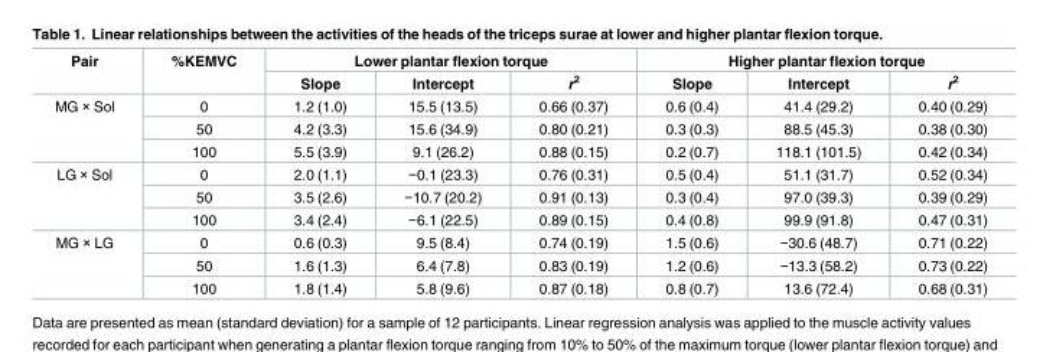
<table><thead><tr><td rowspan="2">Pair</td><td rowspan="2">%KEMVC</td><td colspan="3">Lower plantar flexion torque</td><td colspan="3">Higher plantar flexion torque</td></tr><tr><td>Slope</td><td>Intercept</td><td>r<sup>2</sup></td><td>Slope</td><td>Intercept</td><td>r<sup>2</sup></td></tr></thead><tbody><tr><td rowspan="3">MG × Sol</td><td>0</td><td>1.2 (1.0)</td><td>15.5 (13.5)</td><td>0.66 (0.37)</td><td>0.6 (0.4)</td><td>41.4 (29.2)</td><td>0.40 (0.29)</td></tr><tr><td>50</td><td>4.2 (3.3)</td><td>15.6 (34.9)</td><td>0.80 (0.21)</td><td>0.3 (0.3)</td><td>88.5 (45.3)</td><td>0.38 (0.30)</td></tr><tr><td>100</td><td>5.5 (3.9)</td><td>9.1 (26.2)</td><td>0.88 (0.15)</td><td>0.2 (0.7)</td><td>118.1 (101.5)</td><td>0.42 (0.34)</td></tr><tr><td rowspan="3">LG × Sol</td><td>0</td><td>2.0 (1.1)</td><td>−0.1 (23.3)</td><td>0.76 (0.31)</td><td>0.5 (0.4)</td><td>51.1 (31.7)</td><td>0.52 (0.34)</td></tr><tr><td>50</td><td>3.5 (2.6)</td><td>−10.7 (20.2)</td><td>0.91 (0.13)</td><td>0.3 (0.4)</td><td>97.0 (39.3)</td><td>0.39 (0.29)</td></tr><tr><td>100</td><td>3.4 (2.4)</td><td>−6.1 (22.5)</td><td>0.89 (0.15)</td><td>0.4 (0.8)</td><td>99.9 (91.8)</td><td>0.47 (0.31)</td></tr><tr><td rowspan="3">MG × LG</td><td>0</td><td>0.6 (0.3)</td><td>9.5 (8.4)</td><td>0.74 (0.19)</td><td>1.5 (0.6)</td><td>−30.6 (48.7)</td><td>0.71 (0.22)</td></tr><tr><td>50</td><td>1.6 (1.3)</td><td>6.4 (7.8)</td><td>0.83 (0.19)</td><td>1.2 (0.6)</td><td>−13.3 (58.2)</td><td>0.73 (0.22)</td></tr><tr><td>100</td><td>1.8 (1.4)</td><td>5.8 (9.6)</td><td>0.87 (0.18)</td><td>0.8 (0.7)</td><td>13.6 (72.4)</td><td>0.68 (0.31)</td></tr></tbody></table>